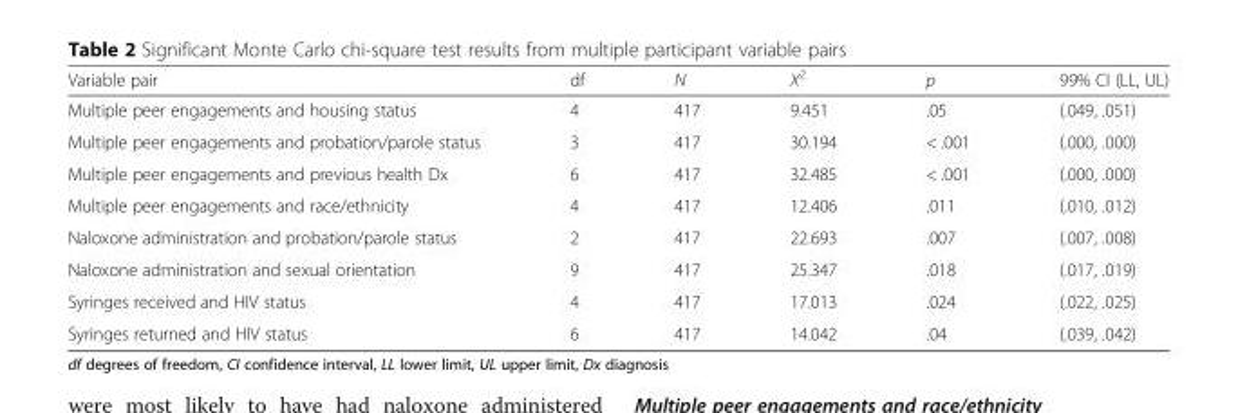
<table><thead><tr><td>Variable pair</td><td>df</td><td>N</td><td>X<sup>2</sup></td><td>p</td><td>99% CI (LL, UL)</td></tr></thead><tbody><tr><td>Multiple peer engagements and housing status</td><td>4</td><td>417</td><td>9.451</td><td>.05</td><td>(.049, .051)</td></tr><tr><td>Multiple peer engagements and probation/parole status</td><td>3</td><td>417</td><td>30.194</td><td>&lt; .001</td><td>(.000, .000)</td></tr><tr><td>Multiple peer engagements and previous health Dx</td><td>6</td><td>417</td><td>32.485</td><td>&lt; .001</td><td>(.000, .000)</td></tr><tr><td>Multiple peer engagements and race/ethnicity</td><td>4</td><td>417</td><td>12.406</td><td>.011</td><td>(.010, .012)</td></tr><tr><td>Naloxone administration and probation/parole status</td><td>2</td><td>417</td><td>22.693</td><td>.007</td><td>(.007, .008)</td></tr><tr><td>Naloxone administration and sexual orientation</td><td>9</td><td>417</td><td>25.347</td><td>.018</td><td>(.017, .019)</td></tr><tr><td>Syringes received and HIV status</td><td>4</td><td>417</td><td>17.013</td><td>.024</td><td>(.022, .025)</td></tr><tr><td>Syringes returned and HIV status</td><td>6</td><td>417</td><td>14.042</td><td>.04</td><td>(.039, .042)</td></tr></tbody></table>